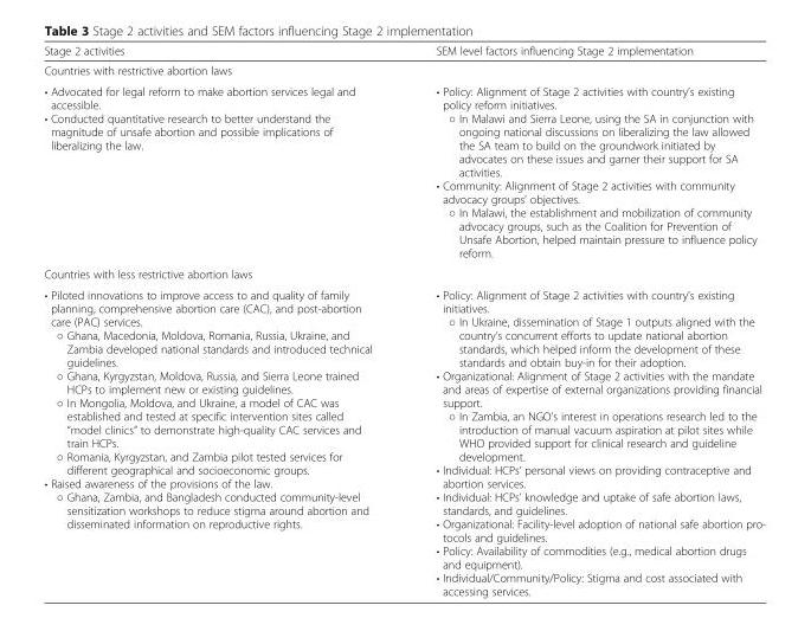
<table><thead><tr><td>Stage 2 activities</td><td>SEM level factors influencing Stage 2 implementation</td></tr></thead><tbody><tr><td colspan="2">Countries with restrictive abortion laws</td></tr><tr><td>• Advocated for legal reform to make abortion services legal and accessible. • Conducted quantitative research to better understand the magnitude of unsafe abortion and possible implications of liberalizing the law.</td><td>• Policy: Alignment of Stage 2 activities with country’s existing policy reform initiatives. ○ In Malawi and Sierra Leone, using the SA in conjunction with ongoing national discussions on liberalizing the law allowed the SA team to build on the groundwork initiated by advocates on these issues and garner their support for SA activities. • Community: Alignment of Stage 2 activities with community advocacy groups’ objectives. ○ In Malawi, the establishment and mobilization of community advocacy groups, such as the Coalition for Prevention of Unsafe Abortion, helped maintain pressure to influence policy reform.</td></tr><tr><td colspan="2">Countries with less restrictive abortion laws</td></tr><tr><td>• Piloted innovations to improve access to and quality of family planning, comprehensive abortion care (CAC), and post-abortion care (PAC) services. ○ Ghana, Macedonia, Moldova, Romania, Russia, Ukraine, and Zambia developed national standards and introduced technical guidelines. ○ Ghana, Kyrgyzstan, Moldova, Russia, and Sierra Leone trained HCPs to implement new or existing guidelines. ○ In Mongolia, Moldova, and Ukraine, a model of CAC was established and tested at specific intervention sites called “model clinics” to demonstrate high-quality CAC services and train HCPs. ○ Romania, Kyrgyzstan, and Zambia pilot tested services for different geographical and socioeconomic groups. • Raised awareness of the provisions of the law. ○ Ghana, Zambia, and Bangladesh conducted community-level sensitization workshops to reduce stigma around abortion and disseminated information on reproductive rights.</td><td>• Policy: Alignment of Stage 2 activities with country’s existing initiatives. ○ In Ukraine, dissemination of Stage 1 outputs aligned with the country’s concurrent efforts to update national abortion standards, which helped inform the development of these standards and obtain buy-in for their adoption. • Organizational: Alignment of Stage 2 activities with the mandate and areas of expertise of external organizations providing financial support. ○ In Zambia, an NGO’s interest in operations research led to the introduction of manual vacuum aspiration at pilot sites while WHO provided support for clinical research and guideline development. • Individual: HCPs’ personal views on providing contraceptive and abortion services. • Individual: HCPs’ knowledge and uptake of safe abortion laws, standards, and guidelines. • Organizational: Facility-level adoption of national safe abortion pro- tocols and guidelines. • Policy: Availability of commodities (e.g., medical abortion drugs and equipment). • Individual/Community/Policy: Stigma and cost associated with accessing services.</td></tr></tbody></table>